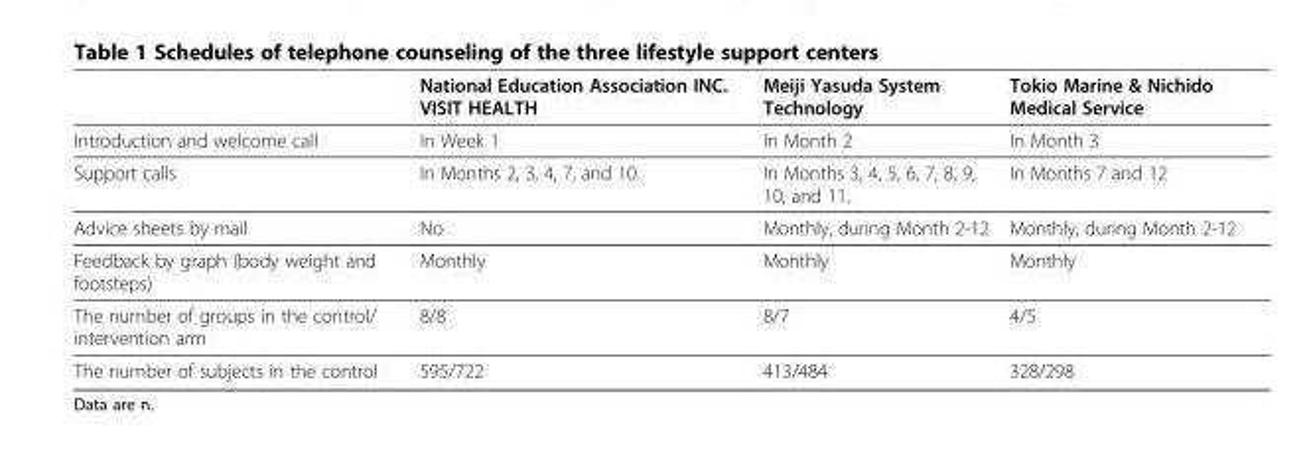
<table><thead><tr><td></td><td>National Education Association INC. VISIT HEALTH</td><td>Meiji Yasuda System Technology</td><td>Tokio Marine &amp; Nichido Medical Service</td></tr></thead><tbody><tr><td>Introduction and welcome call</td><td>In Week 1</td><td>In Month 2</td><td>In Month 3</td></tr><tr><td>Support calls</td><td>In Months 2, 3, 4, 7, and 10.</td><td>In Months 3, 4, 5, 6, 7, 8, 9, 10, and 11.</td><td>In Months 7 and 12</td></tr><tr><td>Advice sheets by mail</td><td>No</td><td>Monthly, during Month 2-12</td><td>Monthly, during Month 2-12</td></tr><tr><td>Feedback by graph (body weight and footsteps)</td><td>Monthly</td><td>Monthly</td><td>Monthly</td></tr><tr><td>The number of groups in the control/ intervention arm</td><td>8/8</td><td>8/7</td><td>4/5</td></tr><tr><td>The number of subjects in the control</td><td>595/722</td><td>413/484</td><td>328/298</td></tr></tbody></table>